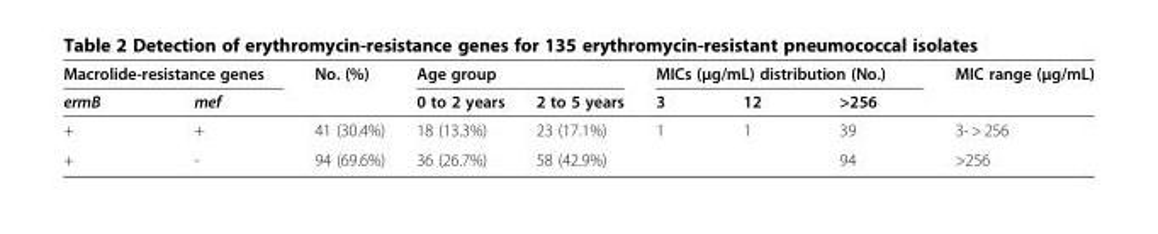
<table><thead><tr><td colspan="2">Macrolide-resistance genes</td><td rowspan="2">No. (%)</td><td colspan="2">Age group</td><td colspan="3">MICs (μg/mL) distribution (No.)</td><td rowspan="2">MIC range (μg/mL)</td></tr><tr><td>ermB</td><td>mef</td><td>0 to 2 years</td><td>2 to 5 years</td><td>3</td><td>12</td><td>&gt;256</td></tr></thead><tbody><tr><td>+</td><td>+</td><td>41 (30.4%)</td><td>18 (13.3%)</td><td>23 (17.1%)</td><td>1</td><td>1</td><td>39</td><td>3- &gt; 256</td></tr><tr><td>+</td><td>-</td><td>94 (69.6%)</td><td>36 (26.7%)</td><td>58 (42.9%)</td><td></td><td></td><td>94</td><td>&gt;256</td></tr></tbody></table>